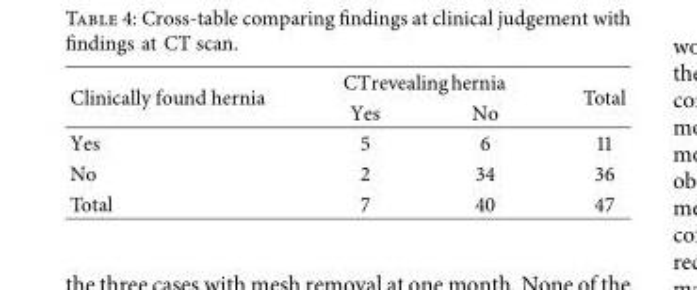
<table><thead><tr><td rowspan="2">Clinically found hernia</td><td colspan="2">CTrevealinghernia</td><td rowspan="2">Total</td></tr><tr><td>Yes</td><td>No</td></tr></thead><tbody><tr><td>Yes</td><td>5</td><td>6</td><td>11</td></tr><tr><td>No</td><td>2</td><td>34</td><td>36</td></tr><tr><td>Total</td><td>7</td><td>40</td><td>47</td></tr></tbody></table>